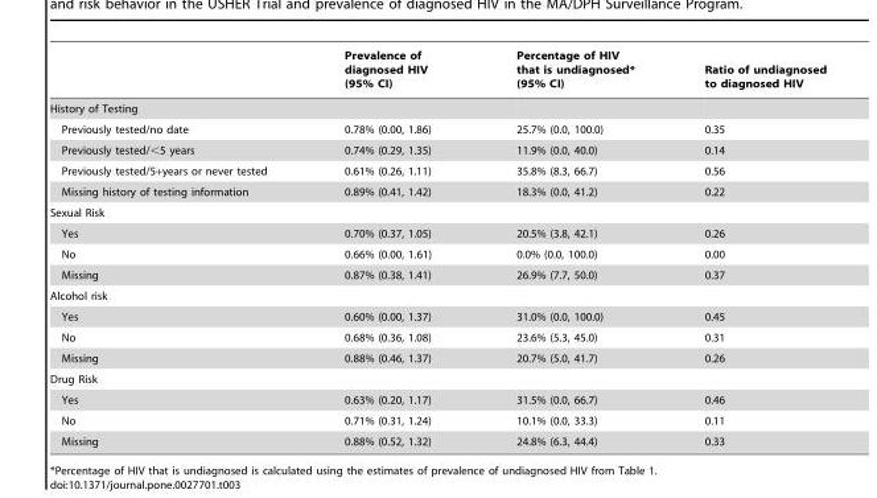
<table><thead><tr><td></td><td>Prevalence of diagnosed HIV (95% CI)</td><td>Percentage of HIV that is undiagnosed* (95% CI)</td><td>Ratio of undiagnosed to diagnosed HIV</td></tr></thead><tbody><tr><td colspan="4">History of Testing</td></tr><tr><td>Previously tested/no date</td><td>0.78% (0.00, 1.86)</td><td>25.7% (0.0, 100.0)</td><td>0.35</td></tr><tr><td>Previously tested/&lt;5 years</td><td>0.74% (0.29, 1.35)</td><td>11.9% (0.0, 40.0)</td><td>0.14</td></tr><tr><td>Previously tested/5+years or never tested</td><td>0.61% (0.26, 1.11)</td><td>35.8% (8.3, 66.7)</td><td>0.56</td></tr><tr><td>Missing history of testing information</td><td>0.89% (0.41, 1.42)</td><td>18.3% (0.0, 41.2)</td><td>0.22</td></tr><tr><td colspan="4">Sexual Risk</td></tr><tr><td>Yes</td><td>0.70% (0.37, 1.05)</td><td>20.5% (3.8, 42.1)</td><td>0.26</td></tr><tr><td>No</td><td>0.66% (0.00, 1.61)</td><td>0.0% (0.0, 100.0)</td><td>0.00</td></tr><tr><td>Missing</td><td>0.87% (0.38, 1.41)</td><td>26.9% (7.7, 50.0)</td><td>0.37</td></tr><tr><td colspan="4">Alcohol risk</td></tr><tr><td>Yes</td><td>0.60% (0.00, 1.37)</td><td>31.0% (0.0, 100.0)</td><td>0.45</td></tr><tr><td>No</td><td>0.68% (0.36, 1.08)</td><td>23.6% (5.3, 45.0)</td><td>0.31</td></tr><tr><td>Missing</td><td>0.88% (0.46, 1.37)</td><td>20.7% (5.0, 41.7)</td><td>0.26</td></tr><tr><td colspan="4">Drug Risk</td></tr><tr><td>Yes</td><td>0.63% (0.20, 1.17)</td><td>31.5% (0.0, 66.7)</td><td>0.46</td></tr><tr><td>No</td><td>0.71% (0.31, 1.24)</td><td>10.1% (0.0, 33.3)</td><td>0.11</td></tr><tr><td>Missing</td><td>0.88% (0.52, 1.32)</td><td>24.8% (6.3, 44.4)</td><td>0.33</td></tr></tbody></table>